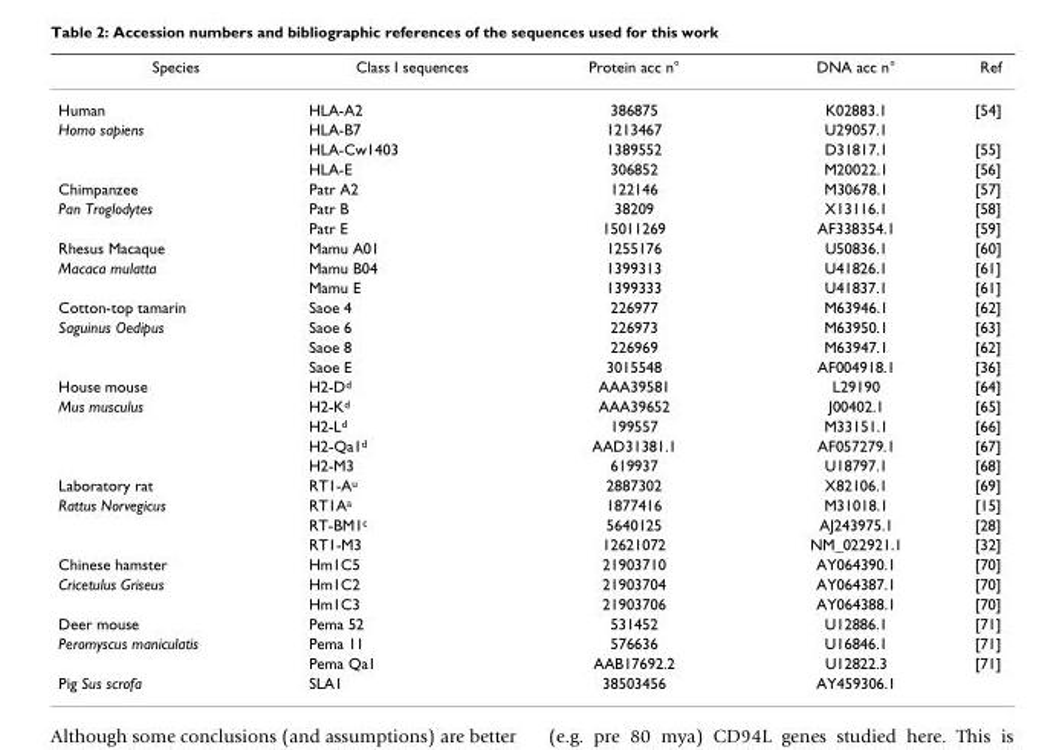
<table><thead><tr><td>Species</td><td>Class I sequences</td><td>Protein acc n°</td><td>DNA acc n°</td><td>Ref</td></tr></thead><tbody><tr><td>Human</td><td>HLA-A2</td><td>386875</td><td>K02883.1</td><td>[54]</td></tr><tr><td rowspan="3">Homo sapiens</td><td>HLA-B7</td><td>1213467</td><td>U29057.1</td><td></td></tr><tr><td>HLA-Cw1403</td><td>1389552</td><td>D31817.1</td><td>[55]</td></tr><tr><td>HLA-E</td><td>306852</td><td>M20022.1</td><td>[56]</td></tr><tr><td>Chimpanzee</td><td>Patr A2</td><td>122146</td><td>M30678.1</td><td>[57]</td></tr><tr><td rowspan="2">Pan Troglodytes</td><td>Patr B</td><td>38209</td><td>X13116.1</td><td>[58]</td></tr><tr><td>Patr E</td><td>15011269</td><td>AF338354.1</td><td>[59]</td></tr><tr><td>Rhesus Macaque</td><td>Mamu A01</td><td>1255176</td><td>U50836.1</td><td>[60]</td></tr><tr><td rowspan="2">Macaca mulatta</td><td>Mamu B04</td><td>1399313</td><td>U41826.1</td><td>[61]</td></tr><tr><td>Mamu E</td><td>1399333</td><td>U41837.1</td><td>[61]</td></tr><tr><td>Cotton-top tamarin</td><td>Saoe 4</td><td>226977</td><td>M63946.1</td><td>[62]</td></tr><tr><td rowspan="3">Saguinus Oedipus</td><td>Saoe 6</td><td>226973</td><td>M63950.1</td><td>[63]</td></tr><tr><td>Saoe 8</td><td>226969</td><td>M63947.1</td><td>[62]</td></tr><tr><td>Saoe E</td><td>3015548</td><td>AF004918.1</td><td>[36]</td></tr><tr><td>House mouse</td><td>H2-D<sup>d</sup></td><td>AAA39581</td><td>L29190</td><td>[64]</td></tr><tr><td rowspan="4">Mus musculus</td><td>H2-K<sup>d</sup></td><td>AAA39652</td><td>J00402.1</td><td>[65]</td></tr><tr><td>H2-L<sup>d</sup></td><td>199557</td><td>M33151.1</td><td>[66]</td></tr><tr><td>H2-Qa1<sup>d</sup></td><td>AAD31381.1</td><td>AF057279.1</td><td>[67]</td></tr><tr><td>H2-M3</td><td>619937</td><td>U18797.1</td><td>[68]</td></tr><tr><td>Laboratory rat</td><td>RT1-A<sup>u</sup></td><td>2887302</td><td>X82106.1</td><td>[69]</td></tr><tr><td rowspan="3">Rattus Norvegicus</td><td>RT1A<sup>a</sup></td><td>1877416</td><td>M31018.1</td><td>[15]</td></tr><tr><td>RT-BM1<sup>c</sup></td><td>5640125</td><td>AJ243975.1</td><td>[28]</td></tr><tr><td>RT1-M3</td><td>12621072</td><td>NM_022921.1</td><td>[32]</td></tr><tr><td>Chinese hamster</td><td>Hm1C5</td><td>21903710</td><td>AY064390.1</td><td>[70]</td></tr><tr><td rowspan="2">Cricetulus Griseus</td><td>Hm1C2</td><td>21903704</td><td>AY064387.1</td><td>[70]</td></tr><tr><td>Hm1C3</td><td>21903706</td><td>AY064388.1</td><td>[70]</td></tr><tr><td>Deer mouse</td><td>Pema 52</td><td>531452</td><td>U12886.1</td><td>[71]</td></tr><tr><td rowspan="2">Peromyscus maniculatis</td><td>Pema 11</td><td>576636</td><td>U16846.1</td><td>[71]</td></tr><tr><td>Pema Qa1</td><td>AAB17692.2</td><td>U12822.3</td><td>[71]</td></tr><tr><td>Pig Sus scrofa</td><td>SLA1</td><td>38503456</td><td>AY459306.1</td><td></td></tr></tbody></table>